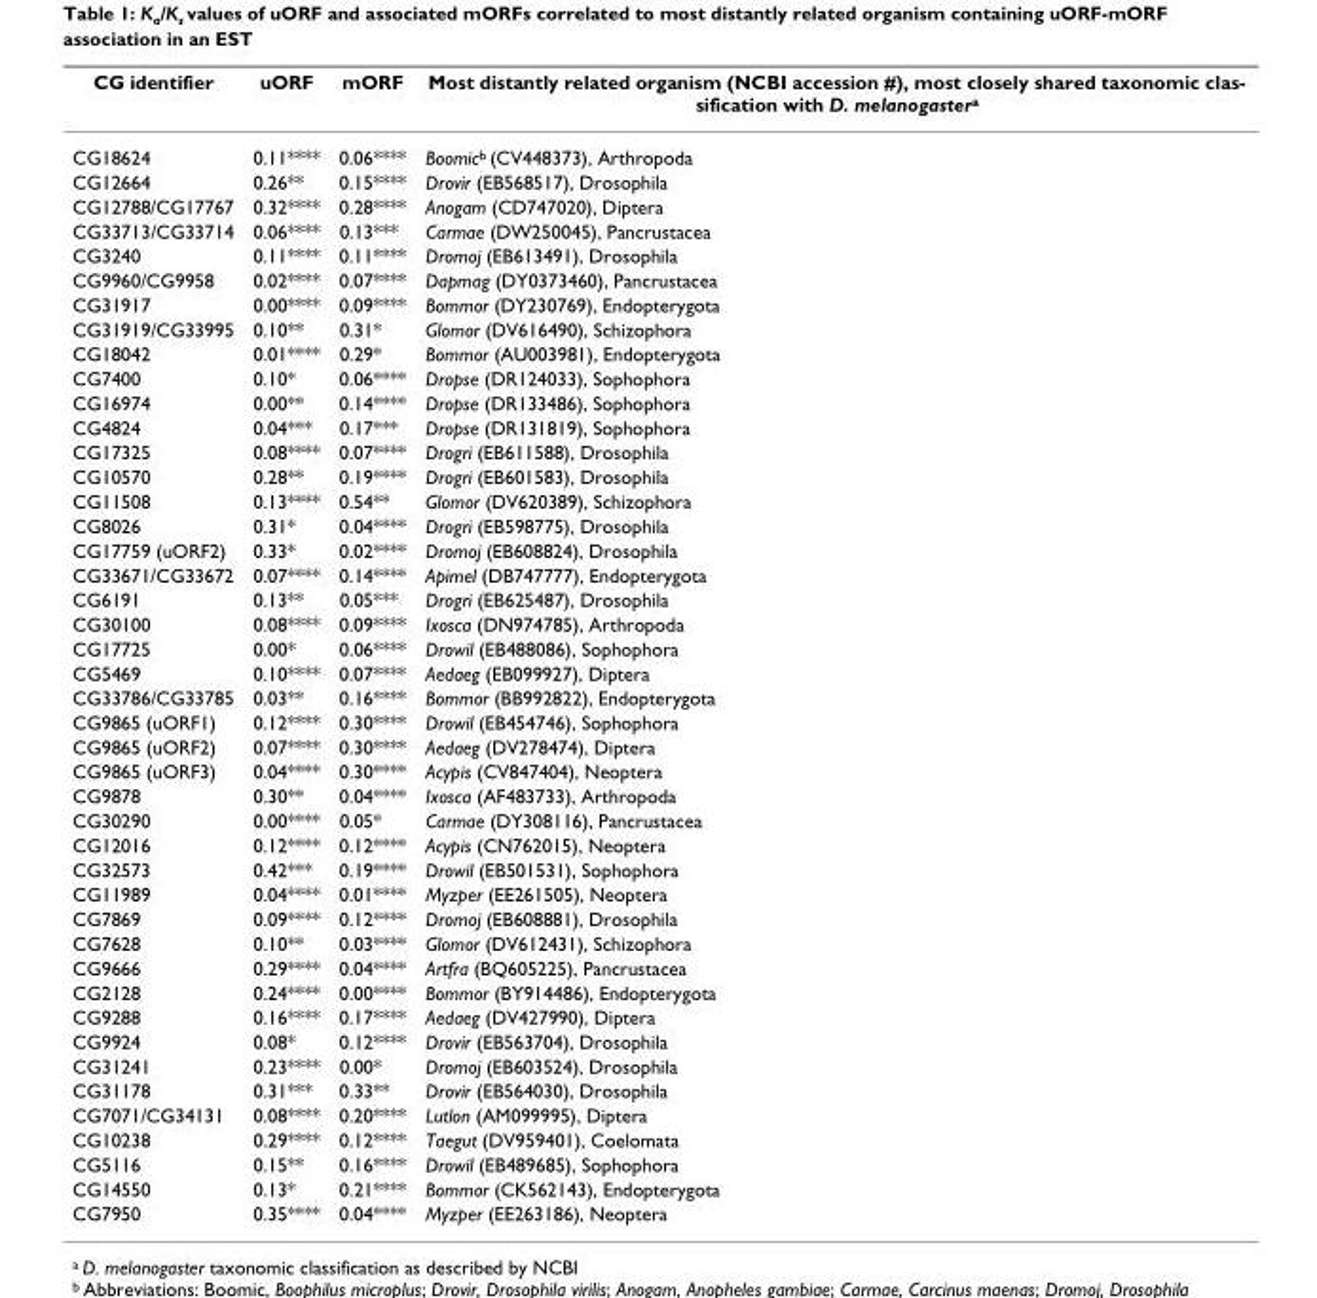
<table><thead><tr><td>CG identifier</td><td>uORF</td><td>mORF</td><td>Most distantly related organism (NCBI accession #), most closely shared taxonomic clas- sification with D. melanogastera</td></tr></thead><tbody><tr><td>CG18624</td><td>0.11****</td><td>0.06****</td><td>Boomic<sup>b</sup> (CV448373), Arthropoda</td></tr><tr><td>CG12664</td><td>0.26**</td><td>0.15****</td><td>Drovir (EB568517), Drosophila</td></tr><tr><td>CG12788/CG17767</td><td>0.32****</td><td>0.28****</td><td>Anogam (CD747020), Diptera</td></tr><tr><td>CG33713/CG33714</td><td>0.06****</td><td>0.13***</td><td>Carmae (DW250045), Pancrustacea</td></tr><tr><td>CG3240</td><td>0.11****</td><td>0.11****</td><td>Dromoj (EB613491), Drosophila</td></tr><tr><td>CG9960/CG9958</td><td>0.02****</td><td>0.07****</td><td>Dapmag (DY0373460), Pancrustacea</td></tr><tr><td>CG31917</td><td>0.00****</td><td>0.09****</td><td>Bommor (DY230769), Endopterygota</td></tr><tr><td>CG31919/CG33995</td><td>0.10**</td><td>0.31*</td><td>Glomor (DV616490), Schizophora</td></tr><tr><td>CG18042</td><td>0.01****</td><td>0.29*</td><td>Bommor (AU003981), Endopterygota</td></tr><tr><td>CG7400</td><td>0.10*</td><td>0.06****</td><td>Dropse (DR124033), Sophophora</td></tr><tr><td>CG16974</td><td>0.00**</td><td>0.14****</td><td>Dropse (DR133486), Sophophora</td></tr><tr><td>CG4824</td><td>0.04***</td><td>0.17***</td><td>Dropse (DR131819), Sophophora</td></tr><tr><td>CG17325</td><td>0.08****</td><td>0.07****</td><td>Drogri (EB611588), Drosophila</td></tr><tr><td>CG10570</td><td>0.28**</td><td>0.19****</td><td>Drogri (EB601583), Drosophila</td></tr><tr><td>CG11508</td><td>0.13****</td><td>0.54**</td><td>Glomor (DV620389), Schizophora</td></tr><tr><td>CG8026</td><td>0.31*</td><td>0.04****</td><td>Drogri (EB598775), Drosophila</td></tr><tr><td>CG17759 (uORF2)</td><td>0.33*</td><td>0.02****</td><td>Dromoj (EB608824), Drosophila</td></tr><tr><td>CG33671/CG33672</td><td>0.07****</td><td>0.14****</td><td>Apimel (DB747777), Endopterygota</td></tr><tr><td>CG6191</td><td>0.13**</td><td>0.05***</td><td>Drogri (EB625487), Drosophila</td></tr><tr><td>CG30100</td><td>0.08****</td><td>0.09****</td><td>Ixosca (DN974785), Arthropoda</td></tr><tr><td>CG17725</td><td>0.00*</td><td>0.06****</td><td>Drowil (EB488086), Sophophora</td></tr><tr><td>CG5469</td><td>0.10****</td><td>0.07****</td><td>Aedaeg (EB099927), Diptera</td></tr><tr><td>CG33786/CG33785</td><td>0.03**</td><td>0.16****</td><td>Bommor (BB992822), Endopterygota</td></tr><tr><td>CG9865 (uORF1)</td><td>0.12****</td><td>0.30****</td><td>Drowil (EB454746), Sophophora</td></tr><tr><td>CG9865 (uORF2)</td><td>0.07****</td><td>0.30****</td><td>Aedaeg (DV278474), Diptera</td></tr><tr><td>CG9865 (uORF3)</td><td>0.04****</td><td>0.30****</td><td>Acypis (CV847404), Neoptera</td></tr><tr><td>CG9878</td><td>0.30**</td><td>0.04****</td><td>Ixosca (AF483733), Arthropoda</td></tr><tr><td>CG30290</td><td>0.00****</td><td>0.05*</td><td>Carmae (DY308116), Pancrustacea</td></tr><tr><td>CG12016</td><td>0.12****</td><td>0.12****</td><td>Acypis (CN762015), Neoptera</td></tr><tr><td>CG32573</td><td>0.42***</td><td>0.19****</td><td>Drowil (EB501531), Sophophora</td></tr><tr><td>CG11989</td><td>0.04****</td><td>0.01****</td><td>Myzper (EE261505), Neoptera</td></tr><tr><td>CG7869</td><td>0.09****</td><td>0.12****</td><td>Dromoj (EB608881), Drosophila</td></tr><tr><td>CG7628</td><td>0.10**</td><td>0.03****</td><td>Glomor (DV612431), Schizophora</td></tr><tr><td>CG9666</td><td>0.29****</td><td>0.04****</td><td>Artfra (BQ605225), Pancrustacea</td></tr><tr><td>CG2128</td><td>0.24****</td><td>0.00****</td><td>Bommor (BY914486), Endopterygota</td></tr><tr><td>CG9288</td><td>0.16****</td><td>0.17****</td><td>Aedaeg (DV427990), Diptera</td></tr><tr><td>CG9924</td><td>0.08*</td><td>0.12****</td><td>Drovir (EB563704), Drosophila</td></tr><tr><td>CG31241</td><td>0.23****</td><td>0.00*</td><td>Dromoj (EB603524), Drosophila</td></tr><tr><td>CG31178</td><td>0.31***</td><td>0.33**</td><td>Drovir (EB564030), Drosophila</td></tr><tr><td>CG7071/CG34131</td><td>0.08****</td><td>0.20****</td><td>Lutlon (AM099995), Diptera</td></tr><tr><td>CG10238</td><td>0.29****</td><td>0.12****</td><td>Taegut (DV959401), Coelomata</td></tr><tr><td>CG5116</td><td>0.15**</td><td>0.16****</td><td>Drowil (EB489685), Sophophora</td></tr><tr><td>CG14550</td><td>0.13*</td><td>0.21****</td><td>Bommor (CK562143), Endopterygota</td></tr><tr><td>CG7950</td><td>0.35****</td><td>0.04****</td><td>Myzper (EE263186), Neoptera</td></tr></tbody></table>